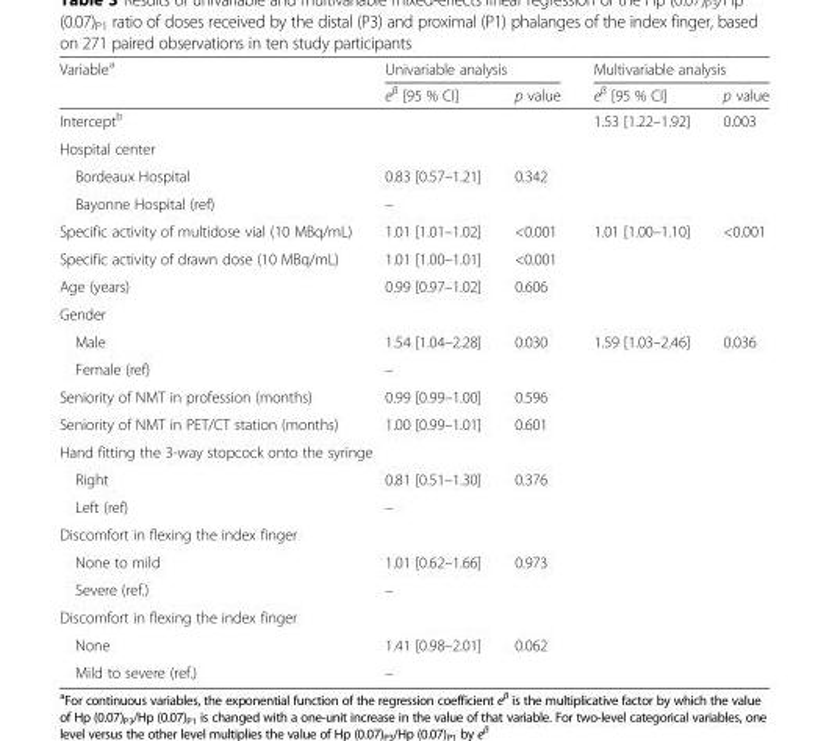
<table><thead><tr><td rowspan="2">Variable<sup>a</sup></td><td colspan="2">Univariable analysis</td><td colspan="2">Multivariable analysis</td></tr><tr><td>e<sup>β</sup> [95 % CI]</td><td>p value</td><td>e<sup>β</sup> [95 % CI]</td><td>p value</td></tr></thead><tbody><tr><td>Intercept<sup>b</sup></td><td></td><td></td><td>1.53 [1.22–1.92]</td><td>0.003</td></tr><tr><td colspan="5">Hospital center</td></tr><tr><td>Bordeaux Hospital</td><td>0.83 [0.57–1.21]</td><td rowspan="2">0.342</td><td rowspan="2"></td><td rowspan="2"></td></tr><tr><td>Bayonne Hospital (ref)</td><td>–</td></tr><tr><td>Specific activity of multidose vial (10 MBq/mL)</td><td>1.01 [1.01–1.02]</td><td>&lt;0.001</td><td>1.01 [1.00–1.10]</td><td>&lt;0.001</td></tr><tr><td>Specific activity of drawn dose (10 MBq/mL)</td><td>1.01 [1.00–1.01]</td><td>&lt;0.001</td><td></td><td></td></tr><tr><td>Age (years)</td><td>0.99 [0.97–1.02]</td><td>0.606</td><td></td><td></td></tr><tr><td colspan="5">Gender</td></tr><tr><td>Male</td><td>1.54 [1.04–2.28]</td><td rowspan="2">0.030</td><td rowspan="2">1.59 [1.03–2.46]</td><td rowspan="2">0.036</td></tr><tr><td>Female (ref)</td><td>–</td></tr><tr><td>Seniority of NMT in profession (months)</td><td>0.99 [0.99–1.00]</td><td>0.596</td><td></td><td></td></tr><tr><td>Seniority of NMT in PET/CT station (months)</td><td>1.00 [0.99–1.01]</td><td>0.601</td><td></td><td></td></tr><tr><td colspan="5">Hand fitting the 3-way stopcock onto the syringe</td></tr><tr><td>Right</td><td>0.81 [0.51–1.30]</td><td rowspan="2">0.376</td><td rowspan="2"></td><td rowspan="2"></td></tr><tr><td>Left (ref)</td><td>–</td></tr><tr><td colspan="5">Discomfort in flexing the index finger</td></tr><tr><td>None to mild</td><td>1.01 [0.62–1.66]</td><td rowspan="2">0.973</td><td rowspan="2"></td><td rowspan="2"></td></tr><tr><td>Severe (ref.)</td><td>–</td></tr><tr><td colspan="5">Discomfort in flexing the index finger</td></tr><tr><td>None</td><td>1.41 [0.98–2.01]</td><td rowspan="2">0.062</td><td rowspan="2"></td><td rowspan="2"></td></tr><tr><td>Mild to severe (ref.)</td><td>–</td></tr></tbody></table>